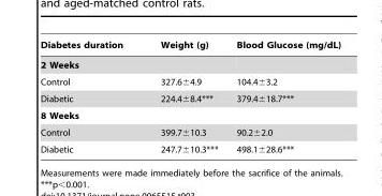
<table><thead><tr><td>Diabetes duration</td><td>Weight (g)</td><td>Blood Glucose (mg/dL)</td></tr></thead><tbody><tr><td colspan="3">2 Weeks</td></tr><tr><td>Control</td><td>327.6±4.9</td><td>104.4±3.2</td></tr><tr><td>Diabetic</td><td>224.4±8.4***</td><td>379.4±18.7***</td></tr><tr><td colspan="3">8 Weeks</td></tr><tr><td>Control</td><td>399.7±10.3</td><td>90.2±2.0</td></tr><tr><td>Diabetic</td><td>247.7±10.3***</td><td>498.1±28.6***</td></tr></tbody></table>